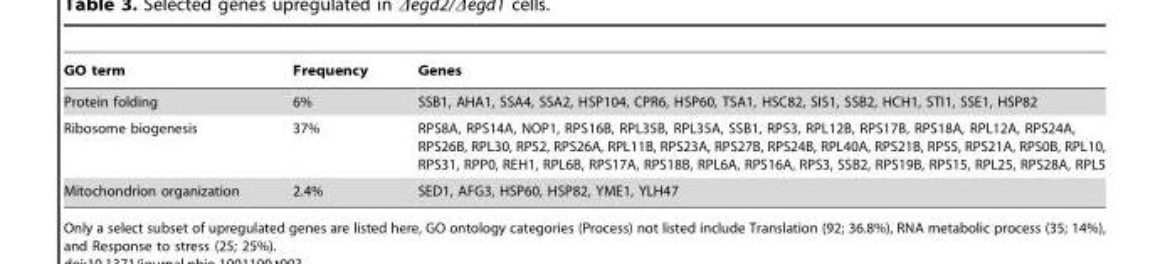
<table><thead><tr><td>GO term</td><td>Frequency</td><td>Genes</td></tr></thead><tbody><tr><td>Protein folding</td><td>6%</td><td>SSB1, AHA1, SSA4, SSA2, HSP104, CPR6, HSP60, TSA1, HSC82, SIS1, SSB2, HCH1, STI1, SSE1, HSP82</td></tr><tr><td>Ribosome biogenesis</td><td>37%</td><td>RPS8A, RPS14A, NOP1, RPS16B, RPL35B, RPL35A, SSB1, RPS3, RPL12B, RPS17B, RPS18A, RPL12A, RPS24A, RPS26B, RPL30, RPS2, RPS26A, RPL11B, RPS23A, RPS27B, RPS24B, RPL40A, RPS21B, RPS5, RPS21A, RPS0B, RPL10, RPS31, RPP0, REH1, RPL6B, RPS17A, RPS18B, RPL6A, RPS16A, RPS3, SSB2, RPS19B, RPS15, RPL25, RPS28A, RPL5</td></tr><tr><td>Mitochondrion organization</td><td>2.4%</td><td>SED1, AFG3, HSP60, HSP82, YME1, YLH47</td></tr></tbody></table>